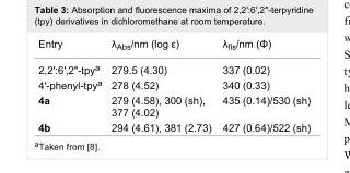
<table><tbody><tr><td>Entry</td><td>λ<sub>Abs</sub>/nm (log ε)</td><td>λ<sub>fls</sub>/nm (Φ)</td></tr><tr><td>2,2′:6′,2″-tpy<sup>a</sup></td><td>279.5 (4.30)</td><td>337 (0.02)</td></tr><tr><td>4′-phenyl-tpy<sup>a</sup></td><td>278 (4.52)</td><td>340 (0.33)</td></tr><tr><td>4a</td><td>279 (4.58), 300 (sh), 377 (4.02)</td><td>435 (0.14)/530 (sh)</td></tr><tr><td>4b</td><td>294 (4.61), 381 (2.73)</td><td>427 (0.64)/522 (sh)</td></tr></tbody></table>